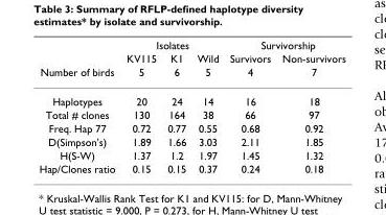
<table><thead><tr><td rowspan="3">Number of birds</td><td colspan="3">Isolates</td><td colspan="2">Survivorship</td></tr><tr><td rowspan="2">KV115 5</td><td rowspan="2">K1 6</td><td rowspan="2">Wild 5</td><td rowspan="2">Survivors 4</td><td rowspan="2">Non-survivors 7</td></tr><tr></tr></thead><tbody><tr><td>Haplotypes</td><td>20</td><td>24</td><td>14</td><td>16</td><td>18</td></tr><tr><td>Total # clones</td><td>130</td><td>164</td><td>38</td><td>66</td><td>97</td></tr><tr><td>Freq. Hap 77</td><td>0.72</td><td>0.77</td><td>0.55</td><td>0.68</td><td>0.92</td></tr><tr><td>D(Simpson&#x27;s)</td><td>1.89</td><td>1.66</td><td>3.03</td><td>2.11</td><td>1.85</td></tr><tr><td>H(S-W)</td><td>1.37</td><td>1.2</td><td>1.97</td><td>1.45</td><td>1.32</td></tr><tr><td>Hap/Clones ratio</td><td>0.15</td><td>0.15</td><td>0.37</td><td>0.24</td><td>0.18</td></tr></tbody></table>